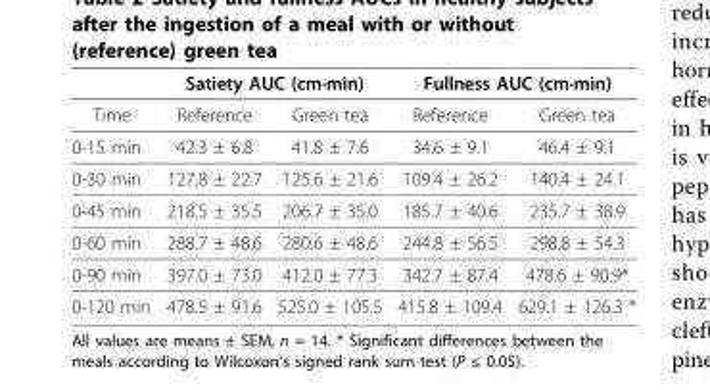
<table><thead><tr><td rowspan="2">Time</td><td colspan="2">Satiety AUC (cm·min)</td><td colspan="2">Fullness AUC (cm·min)</td></tr><tr><td>Reference</td><td>Green tea</td><td>Reference</td><td>Green tea</td></tr></thead><tbody><tr><td>0-15 min</td><td>42.3 ± 6.8</td><td>41.8 ± 7.6</td><td>34.6 ± 9.1</td><td>46.4 ± 9.1</td></tr><tr><td>0-30 min</td><td>127.8 ± 22.7</td><td>125.6 ± 21.6</td><td>109.4 ± 26.2</td><td>140.4 ± 24.1</td></tr><tr><td>0-45 min</td><td>218.5 ± 35.5</td><td>206.7 ± 35.0</td><td>185.7 ± 40.6</td><td>235.7 ± 38.9</td></tr><tr><td>0-60 min</td><td>288.7 ± 48.6</td><td>280.6 ± 48.6</td><td>244.8 ± 56.5</td><td>298.8 ± 54.3</td></tr><tr><td>0-90 min</td><td>397.0 ± 73.0</td><td>412.0 ± 77.3</td><td>342.7 ± 87.4</td><td>478.6 ± 90.9*</td></tr><tr><td>0-120 min</td><td>478.5 ± 91.6</td><td>525.0 ± 105.5</td><td>415.8 ± 109.4</td><td>629.1 ± 126.3 *</td></tr></tbody></table>